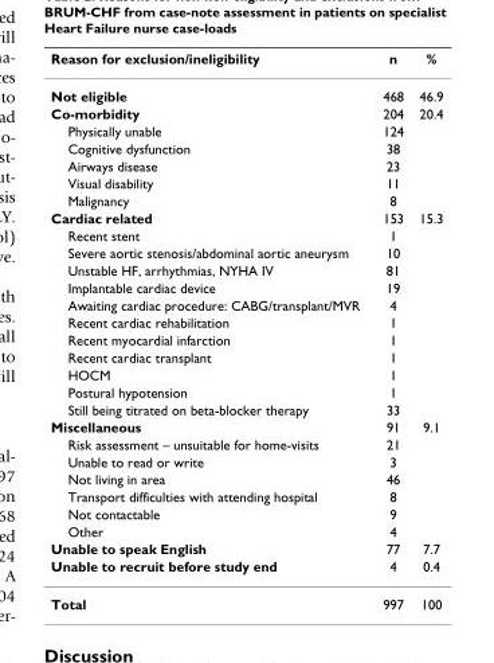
<table><thead><tr><td>Reason for exclusion/ineligibility</td><td>n</td><td>%</td></tr></thead><tbody><tr><td>Not eligible</td><td>468</td><td>46.9</td></tr><tr><td>Co-morbidity</td><td>204</td><td>20.4</td></tr><tr><td>Physically unable</td><td>124</td><td></td></tr><tr><td>Cognitive dysfunction</td><td>38</td><td></td></tr><tr><td>Airways disease</td><td>23</td><td></td></tr><tr><td>Visual disability</td><td>11</td><td></td></tr><tr><td>Malignancy</td><td>8</td><td></td></tr><tr><td>Cardiac related</td><td>153</td><td>15.3</td></tr><tr><td>Recent stent</td><td>1</td><td></td></tr><tr><td>Severe aortic stenosis/abdominal aortic aneurysm</td><td>10</td><td></td></tr><tr><td>Unstable HF, arrhythmias, NYHA IV</td><td>81</td><td></td></tr><tr><td>Implantable cardiac device</td><td>19</td><td></td></tr><tr><td>Awaiting cardiac procedure: CABG/transplant/MVR</td><td>4</td><td></td></tr><tr><td>Recent cardiac rehabilitation</td><td>1</td><td></td></tr><tr><td>Recent myocardial infarction</td><td>1</td><td></td></tr><tr><td>Recent cardiac transplant</td><td>1</td><td></td></tr><tr><td>HOCM</td><td>1</td><td></td></tr><tr><td>Postural hypotension</td><td>1</td><td></td></tr><tr><td>Still being titrated on beta-blocker therapy</td><td>33</td><td></td></tr><tr><td>Miscellaneous</td><td>91</td><td>9.1</td></tr><tr><td>Risk assessment – unsuitable for home-visits</td><td>21</td><td></td></tr><tr><td>Unable to read or write</td><td>3</td><td></td></tr><tr><td>Not living in area</td><td>46</td><td></td></tr><tr><td>Transport difficulties with attending hospital</td><td>8</td><td></td></tr><tr><td>Not contactable</td><td>9</td><td></td></tr><tr><td>Other</td><td>4</td><td></td></tr><tr><td>Unable to speak English</td><td>77</td><td>7.7</td></tr><tr><td>Unable to recruit before study end</td><td>4</td><td>0.4</td></tr><tr><td>Total</td><td>997</td><td>100</td></tr></tbody></table>